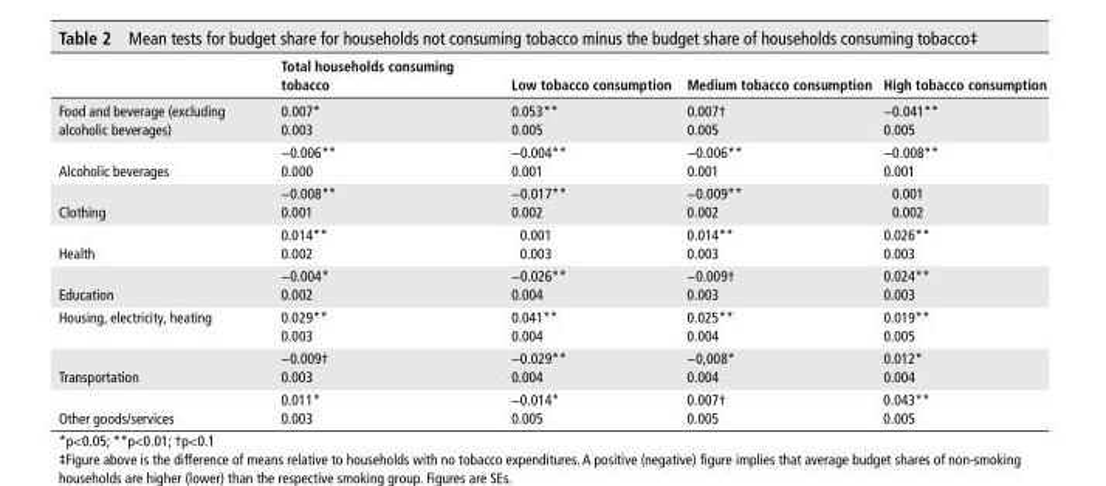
<table><thead><tr><td></td><td>Total households consuming tobacco</td><td>Low tobacco consumption</td><td>Medium tobacco consumption</td><td>high tobacco consumption</td></tr></thead><tbody><tr><td>Food and beverage (excluding alcoholic beverages)</td><td>0.007* 0.003</td><td>0.053** 0.005</td><td>0.007† 0.005</td><td>−0.041** 0.005</td></tr><tr><td>Alcoholic beverages</td><td>−0.006** 0.000</td><td>−0.004** 0.001</td><td>−0.006** 0.001</td><td>−0.008** 0.001</td></tr><tr><td>Clothing</td><td>−0.008** 0.001</td><td>−0.017** 0.002</td><td>−0.009** 0.002</td><td>0.001 0.002</td></tr><tr><td>Health</td><td>0.014** 0.002</td><td>0.001 0.003</td><td>0.014** 0.003</td><td>0.026** 0.003</td></tr><tr><td>Education</td><td>−0.004* 0.002</td><td>−0.026** 0.004</td><td>−0.009† 0.003</td><td>0.024** 0.003</td></tr><tr><td>Housing, electricity, heating</td><td>0.029** 0.003</td><td>0.041** 0.004</td><td>0.025** 0.004</td><td>0.019** 0.005</td></tr><tr><td>Transportation</td><td>−0.009† 0.003</td><td>−0.029** 0.004</td><td>−0,008* 0.004</td><td>0.012* 0.004</td></tr><tr><td>Other goods/services</td><td>0.011* 0.003</td><td>−0.014* 0.005</td><td>0.007† 0.005</td><td>0.043** 0.005</td></tr></tbody></table>